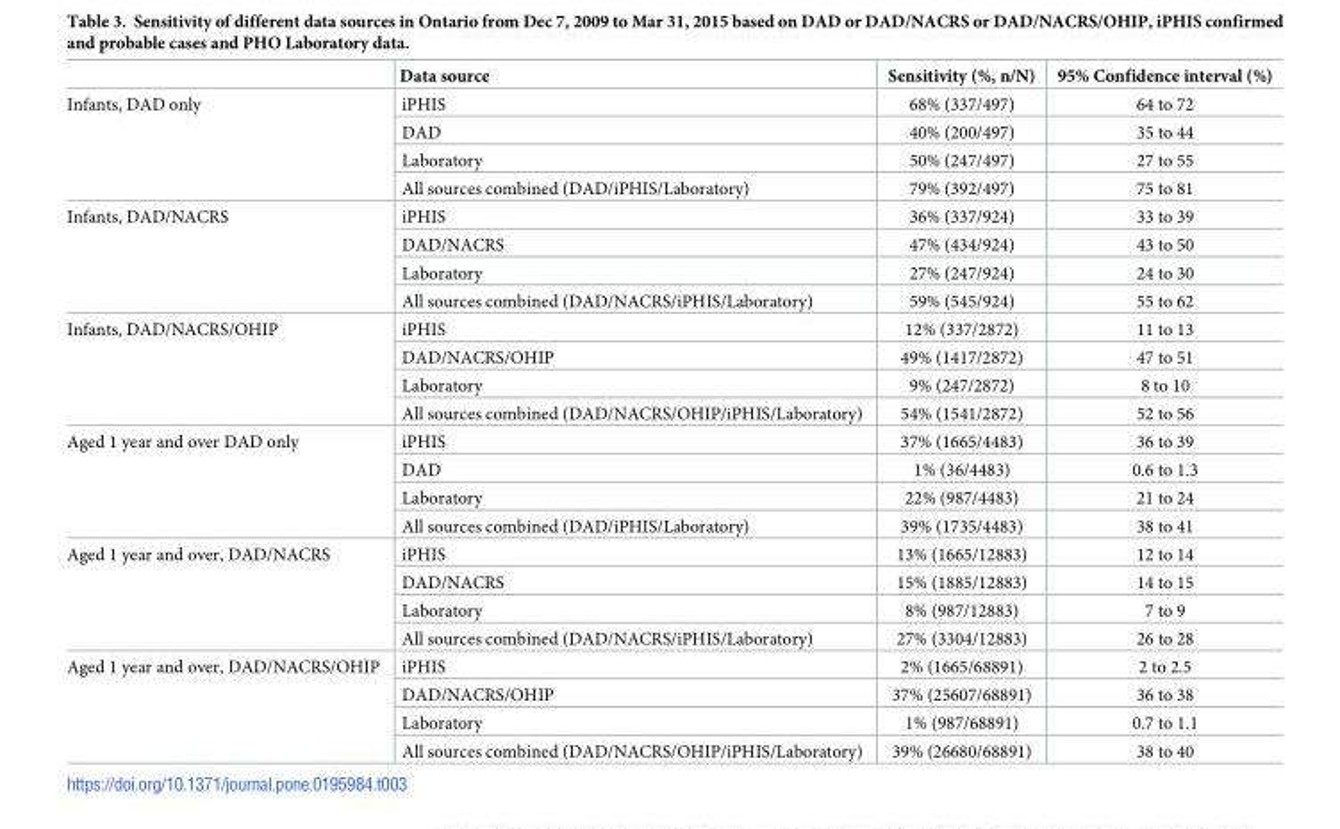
<table><thead><tr><td></td><td>Data source</td><td>Sensitivity (%, n/N)</td><td>95% Confidence interval (%)</td></tr></thead><tbody><tr><td rowspan="4">Infants, DAD only</td><td>iPHIS</td><td>68% (337/497)</td><td>64 to 72</td></tr><tr><td>DAD</td><td>40% (200/497)</td><td>35 to 44</td></tr><tr><td>Laboratory</td><td>50% (247/497)</td><td>27 to 55</td></tr><tr><td>All sources combined (DAD/iPHIS/Laboratory)</td><td>79% (392/497)</td><td>75 to 81</td></tr><tr><td rowspan="4">Infants, DAD/NACRS</td><td>iPHIS</td><td>36% (337/924)</td><td>33 to 39</td></tr><tr><td>DAD/NACRS</td><td>47% (434/924)</td><td>43 to 50</td></tr><tr><td>Laboratory</td><td>27% (247/924)</td><td>24 to 30</td></tr><tr><td>All sources combined (DAD/NACRS/iPHIS/Laboratory)</td><td>59% (545/924)</td><td>55 to 62</td></tr><tr><td rowspan="4">Infants, DAD/NACRS/OHIP</td><td>iPHIS</td><td>12% (337/2872)</td><td>11 to 13</td></tr><tr><td>DAD/NACRS/OHIP</td><td>49% (1417/2872)</td><td>47 to 51</td></tr><tr><td>Laboratory</td><td>9% (247/2872)</td><td>8 to 10</td></tr><tr><td>All sources combined (DAD/NACRS/OHIP/iPHIS/Laboratory)</td><td>54% (1541/2872)</td><td>52 to 56</td></tr><tr><td rowspan="4">Aged 1 year and over DAD only</td><td>iPHIS</td><td>37% (1665/4483)</td><td>36 to 39</td></tr><tr><td>DAD</td><td>1% (36/4483)</td><td>0.6 to 1.3</td></tr><tr><td>Laboratory</td><td>22% (987/4483)</td><td>21 to 24</td></tr><tr><td>All sources combined (DAD/iPHIS/Laboratory)</td><td>39% (1735/4483)</td><td>38 to 41</td></tr><tr><td rowspan="4">Aged 1 year and over, DAD/NACRS</td><td>iPHIS</td><td>13% (1665/12883)</td><td>12 to 14</td></tr><tr><td>DAD/NACRS</td><td>15% (1885/12883)</td><td>14 to 15</td></tr><tr><td>Laboratory</td><td>8% (987/12883)</td><td>7 to 9</td></tr><tr><td>All sources combined (DAD/NACRS/iPHIS/Laboratory)</td><td>27% (3304/12883)</td><td>26 to 28</td></tr><tr><td rowspan="4">Aged 1 year and over, DAD/NACRS/OHIP</td><td>iPHIS</td><td>2% (1665/68891)</td><td>2 to 2.5</td></tr><tr><td>DAD/NACRS/OHIP</td><td>37% (25607/68891)</td><td>36 to 38</td></tr><tr><td>Laboratory</td><td>1% (987/68891)</td><td>0.7 to 1.1</td></tr><tr><td>All sources combined (DAD/NACRS/OHIP/iPHIS/Laboratory)</td><td>39% (26680/68891)</td><td>38 to 40</td></tr></tbody></table>